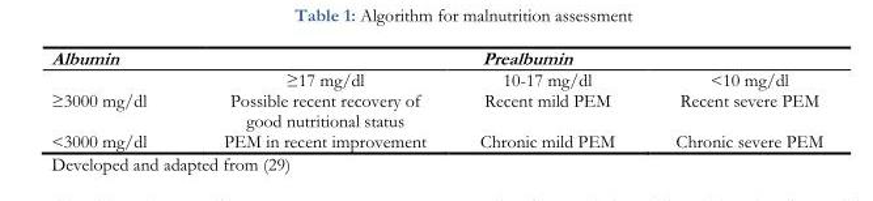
<table><thead><tr><td rowspan="2">Albumin</td><td colspan="3">Prealbumin</td></tr><tr><td>≥17 mg/dl</td><td>10-17 mg/dl</td><td>&lt;10 mg/dl</td></tr></thead><tbody><tr><td>≥3000 mg/dl</td><td>Possible recent recovery of good nutritional status</td><td>Recent mild PEM</td><td>Recent severe PEM</td></tr><tr><td>&lt;3000 mg/dl</td><td>PEM in recent improvement</td><td>Chronic mild PEM</td><td>Chronic severe PEM</td></tr></tbody></table>